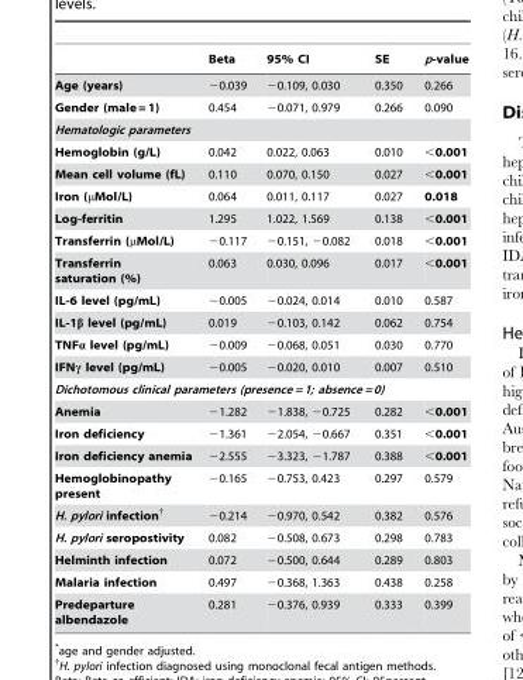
<table><thead><tr><td></td><td>Beta</td><td>95% CI</td><td>SE</td><td>p-value</td></tr></thead><tbody><tr><td>Age (years)</td><td>−0.039</td><td>−0.109, 0.030</td><td>0.350</td><td>0.266</td></tr><tr><td>Gender (male = 1)</td><td>0.454</td><td>−0.071, 0.979</td><td>0.266</td><td>0.090</td></tr><tr><td colspan="5">Hematologic parameters</td></tr><tr><td>Hemoglobin (g/L)</td><td>0.042</td><td>0.022, 0.063</td><td>0.010</td><td>&lt;0.001</td></tr><tr><td>Mean cell volume (fL)</td><td>0.110</td><td>0.070, 0.150</td><td>0.027</td><td>&lt;0.001</td></tr><tr><td>Iron (μMol/L)</td><td>0.064</td><td>0.011, 0.117</td><td>0.027</td><td>0.018</td></tr><tr><td>Log-ferritin</td><td>1.295</td><td>1.022, 1.569</td><td>0.138</td><td>&lt;0.001</td></tr><tr><td>Transferrin (μMol/L)</td><td>−0.117</td><td>−0.151, −0.082</td><td>0.018</td><td>&lt;0.001</td></tr><tr><td>Transferrin saturation (%)</td><td>0.063</td><td>0.030, 0.096</td><td>0.017</td><td>&lt;0.001</td></tr><tr><td>IL-6 level (pg/mL)</td><td>−0.005</td><td>−0.024, 0.014</td><td>0.010</td><td>0.587</td></tr><tr><td>IL-1β level (pg/mL)</td><td>0.019</td><td>−0.103, 0.142</td><td>0.062</td><td>0.754</td></tr><tr><td>TNFα level (pg/mL)</td><td>−0.009</td><td>−0.068, 0.051</td><td>0.030</td><td>0.770</td></tr><tr><td>IFNγ level (pg/mL)</td><td>−0.005</td><td>−0.020, 0.010</td><td>0.007</td><td>0.510</td></tr><tr><td colspan="5">Dichotomous clinical parameters (presence = 1; absence = 0)</td></tr><tr><td>Anemia</td><td>−1.282</td><td>−1.838, −0.725</td><td>0.282</td><td>&lt;0.001</td></tr><tr><td>Iron deficiency</td><td>−1.361</td><td>−2.054, −0.667</td><td>0.351</td><td>&lt;0.001</td></tr><tr><td>Iron deficiency anemia</td><td>−2.555</td><td>−3.323, −1.787</td><td>0.388</td><td>&lt;0.001</td></tr><tr><td>Hemoglobinopathy present</td><td>−0.165</td><td>−0.753, 0.423</td><td>0.297</td><td>0.579</td></tr><tr><td>H. pylori infection†</td><td>−0.214</td><td>−0.970, 0.542</td><td>0.382</td><td>0.576</td></tr><tr><td>H. pylori seropostivity</td><td>0.082</td><td>−0.508, 0.673</td><td>0.298</td><td>0.783</td></tr><tr><td>Helminth infection</td><td>0.072</td><td>−0.500, 0.644</td><td>0.289</td><td>0.803</td></tr><tr><td>Malaria infection</td><td>0.497</td><td>−0.368, 1.363</td><td>0.438</td><td>0.258</td></tr><tr><td>Predeparture albendazole</td><td>0.281</td><td>−0.376, 0.939</td><td>0.333</td><td>0.399</td></tr></tbody></table>